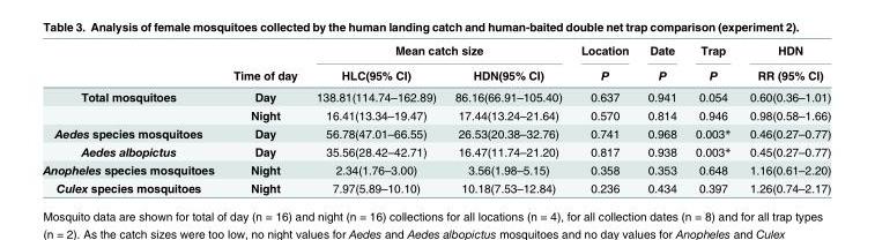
<table><thead><tr><td rowspan="2"></td><td rowspan="2">Time of day</td><td colspan="2">Mean catch size</td><td rowspan="2">Location P</td><td rowspan="2">Date P</td><td rowspan="2">Trap P</td><td rowspan="2">HDN RR (95% CI)</td></tr><tr><td>HLC(95% CI)</td><td>HDN(95% CI)</td></tr></thead><tbody><tr><td rowspan="2">Total mosquitoes</td><td>Day</td><td>138.81(114.74–162.89)</td><td>86.16(66.91–105.40)</td><td>0.637</td><td>0.941</td><td>0.054</td><td>0.60(0.36–1.01)</td></tr><tr><td>Night</td><td>16.41(13.34–19.47)</td><td>17.44(13.24–21.64)</td><td>0.570</td><td>0.814</td><td>0.946</td><td>0.98(0.58–1.66)</td></tr><tr><td>Aedes species mosquitoes</td><td>Day</td><td>56.78(47.01–66.55)</td><td>26.53(20.38–32.76)</td><td>0.741</td><td>0.968</td><td>0.003*</td><td>0.46(0.27–0.77)</td></tr><tr><td>Aedes albopictus</td><td>Day</td><td>35.56(28.42–42.71)</td><td>16.47(11.74–21.20)</td><td>0.817</td><td>0.938</td><td>0.003*</td><td>0.45(0.27–0.77)</td></tr><tr><td>Anopheles species mosquitoes</td><td>Night</td><td>2.34(1.76–3.00)</td><td>3.56(1.98–5.15)</td><td>0.358</td><td>0.353</td><td>0.648</td><td>1.16(0.61–2.20)</td></tr><tr><td>Culex species mosquitoes</td><td>Night</td><td>7.97(5.89–10.10)</td><td>10.18(7.53–12.84)</td><td>0.236</td><td>0.434</td><td>0.397</td><td>1.26(0.74–2.17)</td></tr></tbody></table>